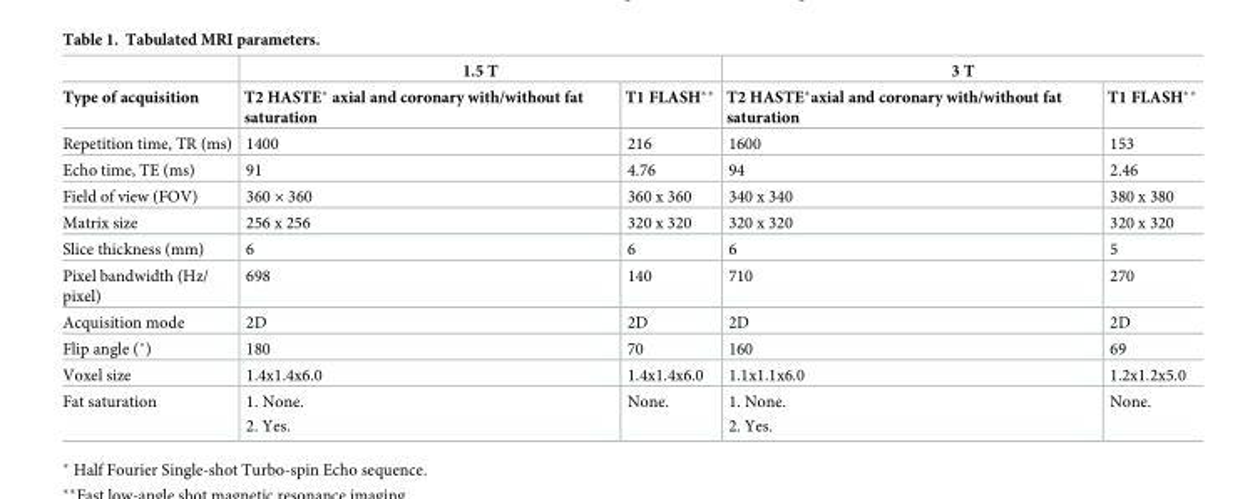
<table><thead><tr><td rowspan="2">Type of acquisition</td><td colspan="2">1.5 T</td><td colspan="2">3 T</td></tr><tr><td>T2 HASTE* axial and coronary with/without fat saturation</td><td>T1 FLASH**</td><td>T2 HASTE*axial and coronary with/without fat saturation</td><td>T1 FLASH**</td></tr></thead><tbody><tr><td>Repetition time, TR (ms)</td><td>1400</td><td>216</td><td>1600</td><td>153</td></tr><tr><td>Echo time, TE (ms)</td><td>91</td><td>4.76</td><td>94</td><td>2.46</td></tr><tr><td>Field of view (FOV)</td><td>360 × 360</td><td>360 x 360</td><td>340 x 340</td><td>380 x 380</td></tr><tr><td>Matrix size</td><td>256 x 256</td><td>320 x 320</td><td>320 x 320</td><td>320 x 320</td></tr><tr><td>Slice thickness (mm)</td><td>6</td><td>6</td><td>6</td><td>5</td></tr><tr><td>Pixel bandwidth (Hz/ pixel)</td><td>698</td><td>140</td><td>710</td><td>270</td></tr><tr><td>Acquisition mode</td><td>2D</td><td>2D</td><td>2D</td><td>2D</td></tr><tr><td>Flip angle (˚)</td><td>180</td><td>70</td><td>160</td><td>69</td></tr><tr><td>Voxel size</td><td>1.4x1.4x6.0</td><td>1.4x1.4x6.0</td><td>1.1x1.1x6.0</td><td>1.2x1.2x5.0</td></tr><tr><td>Fat saturation</td><td>1. None. 2. Yes.</td><td>None.</td><td>1. None. 2. Yes.</td><td>None.</td></tr></tbody></table>